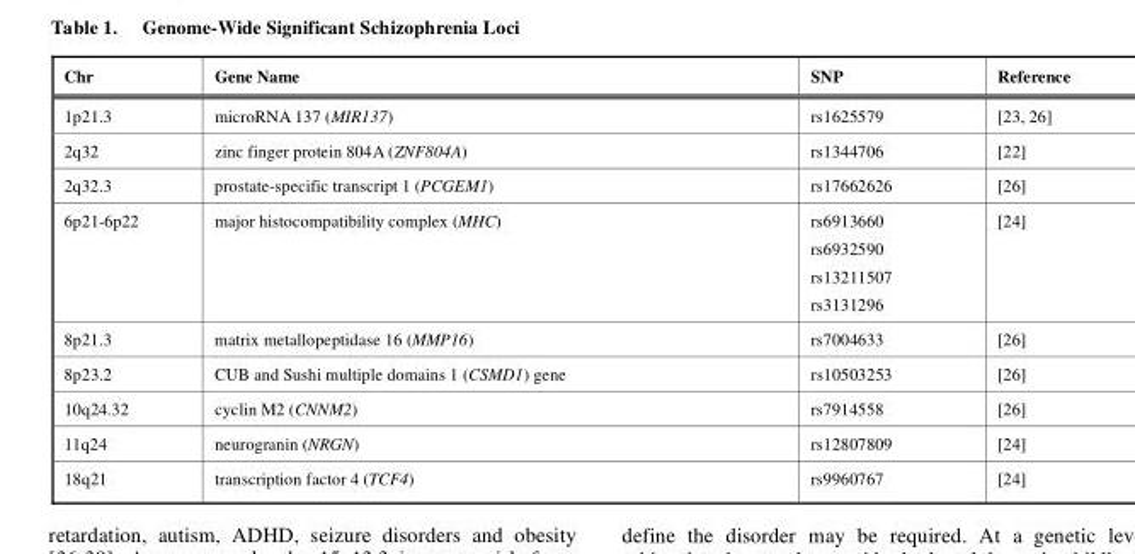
<table><thead><tr><td>Chr</td><td>Gene Name</td><td>SNP</td><td>Reference</td></tr></thead><tbody><tr><td>1p21.3</td><td>microRNA 137 (MIR137)</td><td>rs1625579</td><td>[23, 26]</td></tr><tr><td>2q32</td><td>zinc finger protein 804A (ZNF804A)</td><td>rs1344706</td><td>[22]</td></tr><tr><td>2q32.3</td><td>prostate-specific transcript 1 (PCGEM1)</td><td>rs17662626</td><td>[26]</td></tr><tr><td>6p21-6p22</td><td>major histocompatibility complex (MHC)</td><td>rs6913660 rs6932590 rs13211507 rs3131296</td><td>[24]</td></tr><tr><td>8p21.3</td><td>matrix metallopeptidase 16 (MMP16)</td><td>rs7004633</td><td>[26]</td></tr><tr><td>8p23.2</td><td>CUB and Sushi multiple domains 1 (CSMD1) gene</td><td>rs10503253</td><td>[26]</td></tr><tr><td>10q24.32</td><td>cyclin M2 (CNNM2)</td><td>rs7914558</td><td>[26]</td></tr><tr><td>11q24</td><td>neurogranin (NRGN)</td><td>rs12807809</td><td>[24]</td></tr><tr><td>18q21</td><td>transcription factor 4 (TCF4)</td><td>rs9960767</td><td>[24]</td></tr></tbody></table>